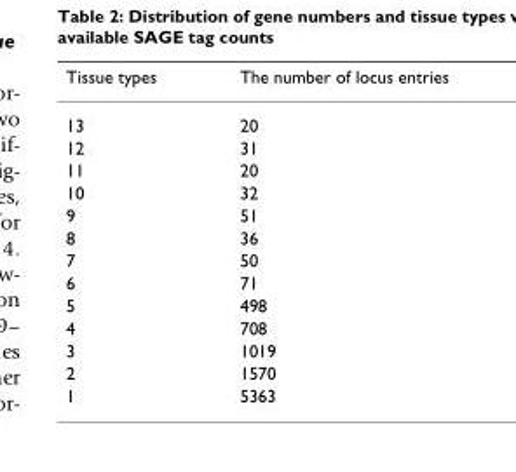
<table><thead><tr><td>Tissue types</td><td>The number of locus entries</td></tr></thead><tbody><tr><td>13</td><td>20</td></tr><tr><td>12</td><td>31</td></tr><tr><td>11</td><td>20</td></tr><tr><td>10</td><td>32</td></tr><tr><td>9</td><td>51</td></tr><tr><td>8</td><td>36</td></tr><tr><td>7</td><td>50</td></tr><tr><td>6</td><td>71</td></tr><tr><td>5</td><td>498</td></tr><tr><td>4</td><td>708</td></tr><tr><td>3</td><td>1019</td></tr><tr><td>2</td><td>1570</td></tr><tr><td>1</td><td>5363</td></tr></tbody></table>